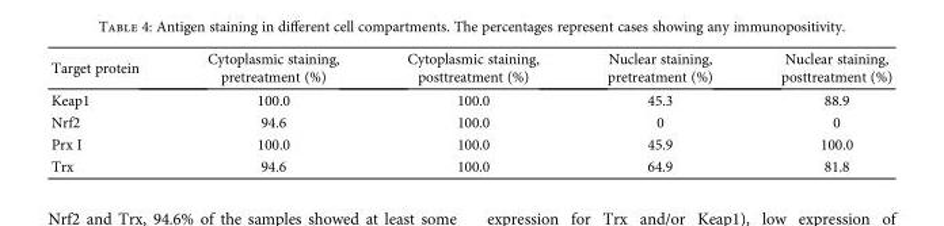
<table><thead><tr><td>Target protein</td><td>Cytoplasmic staining, pretreatment (%)</td><td>Cytoplasmic staining, posttreatment (%)</td><td>Nuclear staining, pretreatment (%)</td><td>Nuclear staining, posttreatment (%)</td></tr></thead><tbody><tr><td>Keap1</td><td>100.0</td><td>100.0</td><td>45.3</td><td>88.9</td></tr><tr><td>Nrf2</td><td>94.6</td><td>100.0</td><td>0</td><td>0</td></tr><tr><td>Prx I</td><td>100.0</td><td>100.0</td><td>45.9</td><td>100.0</td></tr><tr><td>Trx</td><td>94.6</td><td>100.0</td><td>64.9</td><td>81.8</td></tr></tbody></table>